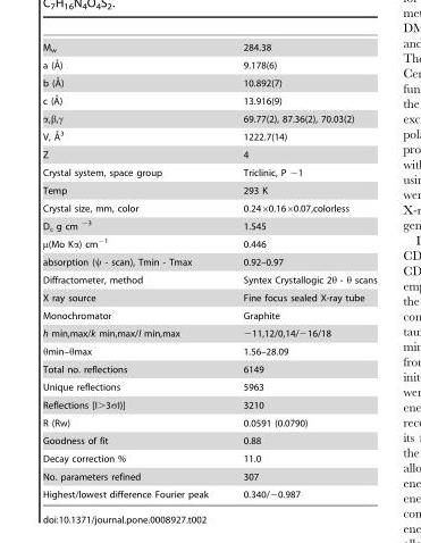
<table><tbody><tr><td>M<sub>w</sub></td><td>284.38</td></tr><tr><td>a (A˚)</td><td>9.178(6)</td></tr><tr><td>b (A˚)</td><td>10.892(7)</td></tr><tr><td>c (A˚)</td><td>13.916(9)</td></tr><tr><td>α,β,γ</td><td>69.77(2), 87.36(2), 70.03(2)</td></tr><tr><td>V, A˚3</td><td>1222.7(14)</td></tr><tr><td>Z</td><td>4</td></tr><tr><td>Crystal system, space group</td><td>Triclinic, P −1</td></tr><tr><td>Temp</td><td>293 K</td></tr><tr><td>Crystal size, mm, color</td><td>0.24×0.16×0.07,colorless</td></tr><tr><td>D<sub>c</sub> g cm <sup>−3</sup></td><td>1.545</td></tr><tr><td>µ(Mo Kα) cm<sup>−1</sup></td><td>0.446</td></tr><tr><td>absorption (ψ - scan), Tmin - Tmax</td><td>0.92–0.97</td></tr><tr><td>Diffractometer, method</td><td>Syntex Crystallogic 2θ - θ scans</td></tr><tr><td>X ray source</td><td>Fine focus sealed X-ray tube</td></tr><tr><td>Monochromator</td><td>Graphite</td></tr><tr><td>h min,max/k min,max/l min,max</td><td>−11,12/0,14/−16/18</td></tr><tr><td>θmin–θmax</td><td>1.56–28.09</td></tr><tr><td>Total no. reflections</td><td>6149</td></tr><tr><td>Unique reflections</td><td>5963</td></tr><tr><td>Reflections [I&gt;3σI)]</td><td>3210</td></tr><tr><td>R (Rw)</td><td>0.0591 (0.0790)</td></tr><tr><td>Goodness of fit</td><td>0.88</td></tr><tr><td>Decay correction %</td><td>11.0</td></tr><tr><td>No. parameters refined</td><td>307</td></tr><tr><td>Highest/lowest difference Fourier peak</td><td>0.340/−0.987</td></tr></tbody></table>